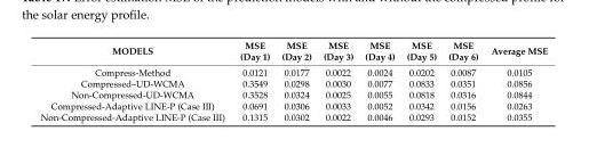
<table><thead><tr><td>MODELS</td><td>MSE (Day 1)</td><td>MSE (Day 2)</td><td>MSE (Day 3)</td><td>MSE (Day 4)</td><td>MSE (Day 5)</td><td>MSE (Day 6)</td><td>Average MSE</td></tr></thead><tbody><tr><td>Compress-Method</td><td>0.0121</td><td>0.0177</td><td>0.0022</td><td>0.0024</td><td>0.0202</td><td>0.0087</td><td>0.0105</td></tr><tr><td>Compressed–UD-WCMA</td><td>0.3549</td><td>0.0298</td><td>0.0030</td><td>0.0077</td><td>0.0833</td><td>0.0351</td><td>0.0856</td></tr><tr><td>Non-Compressed-UD-WCMA</td><td>0.3528</td><td>0.0324</td><td>0.0025</td><td>0.0055</td><td>0.0818</td><td>0.0316</td><td>0.0844</td></tr><tr><td>Compressed-Adaptive LINE-P (Case III)</td><td>0.0691</td><td>0.0306</td><td>0.0033</td><td>0.0052</td><td>0.0342</td><td>0.0156</td><td>0.0263</td></tr><tr><td>Non-Compressed-Adaptive LINE-P (Case III)</td><td>0.1315</td><td>0.0302</td><td>0.0022</td><td>0.0046</td><td>0.0293</td><td>0.0152</td><td>0.0355</td></tr></tbody></table>